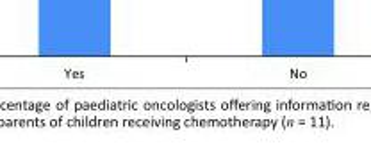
<table><tbody><tr><td>Yes</td><td>No</td></tr></tbody></table>